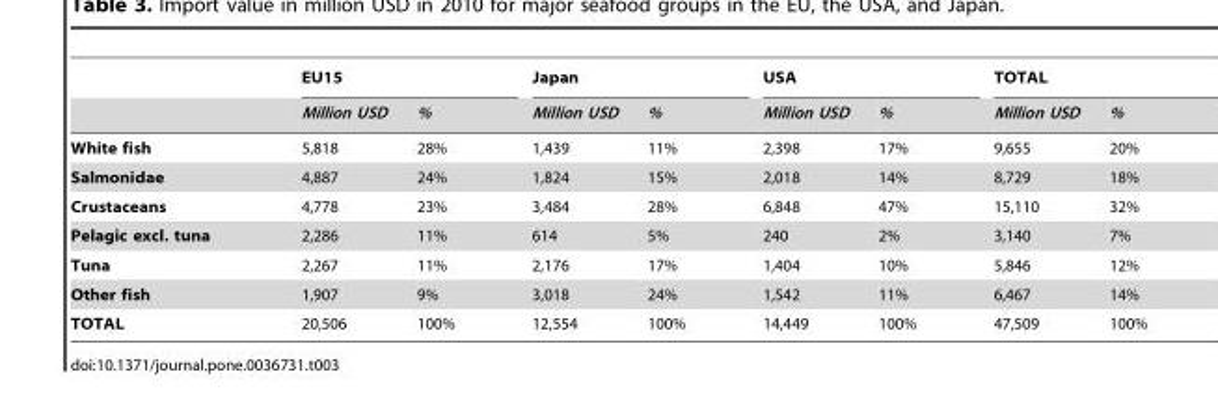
<table><thead><tr><td rowspan="2"></td><td colspan="2">EU15</td><td colspan="2">Japan</td><td colspan="2">USA</td><td colspan="2">TOTAL</td></tr><tr><td>Million USD</td><td>%</td><td>Million USD</td><td>%</td><td>Million USD</td><td>%</td><td>Million USD</td><td>%</td></tr></thead><tbody><tr><td>White fish</td><td>5,818</td><td>28%</td><td>1,439</td><td>11%</td><td>2,398</td><td>17%</td><td>9,655</td><td>20%</td></tr><tr><td>Salmonidae</td><td>4,887</td><td>24%</td><td>1,824</td><td>15%</td><td>2,018</td><td>14%</td><td>8,729</td><td>18%</td></tr><tr><td>Crustaceans</td><td>4,778</td><td>23%</td><td>3,484</td><td>28%</td><td>6,848</td><td>47%</td><td>15,110</td><td>32%</td></tr><tr><td>Pelagic excl. tuna</td><td>2,286</td><td>11%</td><td>614</td><td>5%</td><td>240</td><td>2%</td><td>3,140</td><td>7%</td></tr><tr><td>Tuna</td><td>2,267</td><td>11%</td><td>2,176</td><td>17%</td><td>1,404</td><td>10%</td><td>5,846</td><td>12%</td></tr><tr><td>Other fish</td><td>1,907</td><td>9%</td><td>3,018</td><td>24%</td><td>1,542</td><td>11%</td><td>6,467</td><td>14%</td></tr><tr><td>TOTAL</td><td>20,506</td><td>100%</td><td>12,554</td><td>100%</td><td>14,449</td><td>100%</td><td>47,509</td><td>100%</td></tr></tbody></table>